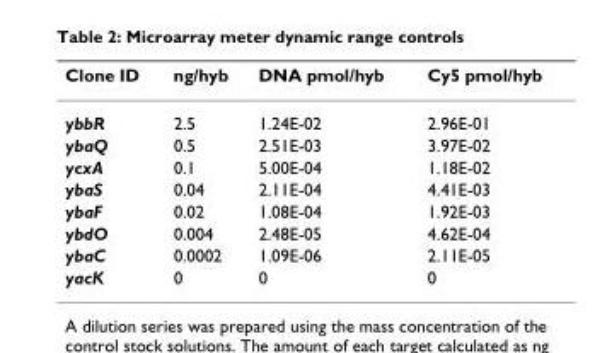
<table><thead><tr><td>Clone ID</td><td>ng/hyb</td><td>DNA pmol/hyb</td><td>Cy5 pmol/hyb</td></tr></thead><tbody><tr><td>ybbR</td><td>2.5</td><td>1.24E-02</td><td>2.96E-01</td></tr><tr><td>ybaQ</td><td>0.5</td><td>2.51E-03</td><td>3.97E-02</td></tr><tr><td>ycxA</td><td>0.1</td><td>5.00E-04</td><td>1.18E-02</td></tr><tr><td>ybaS</td><td>0.04</td><td>2.11E-04</td><td>4.41E-03</td></tr><tr><td>ybaF</td><td>0.02</td><td>1.08E-04</td><td>1.92E-03</td></tr><tr><td>ybdO</td><td>0.004</td><td>2.48E-05</td><td>4.62E-04</td></tr><tr><td>ybaC</td><td>0.0002</td><td>1.09E-06</td><td>2.11E-05</td></tr><tr><td>yacK</td><td>0</td><td>0</td><td>0</td></tr></tbody></table>